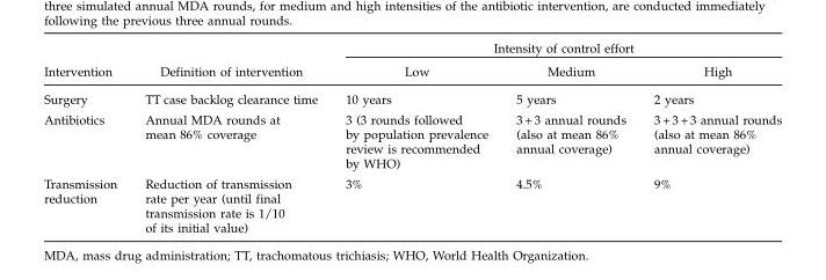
<table><thead><tr><td rowspan="2">Intervention</td><td rowspan="2">Definition of intervention</td><td colspan="3">Intensity of control effort</td></tr><tr><td>Low</td><td>Medium</td><td>High</td></tr></thead><tbody><tr><td>Surgery</td><td>TT case backlog clearance time</td><td>10 years</td><td>5 years</td><td>2 years</td></tr><tr><td>Antibiotics</td><td>Annual MDA rounds at mean 86% coverage</td><td>3 (3 rounds followed by population prevalence review is recommended by WHO)</td><td>3 + 3 annual rounds (also at mean 86% annual coverage)</td><td>3 + 3 + 3 annual rounds (also at mean 86% annual coverage)</td></tr><tr><td>Transmission reduction</td><td>Reduction of transmission rate per year (until final transmission rate is 1/10 of its initial value)</td><td>3%</td><td>4.5%</td><td>9%</td></tr></tbody></table>